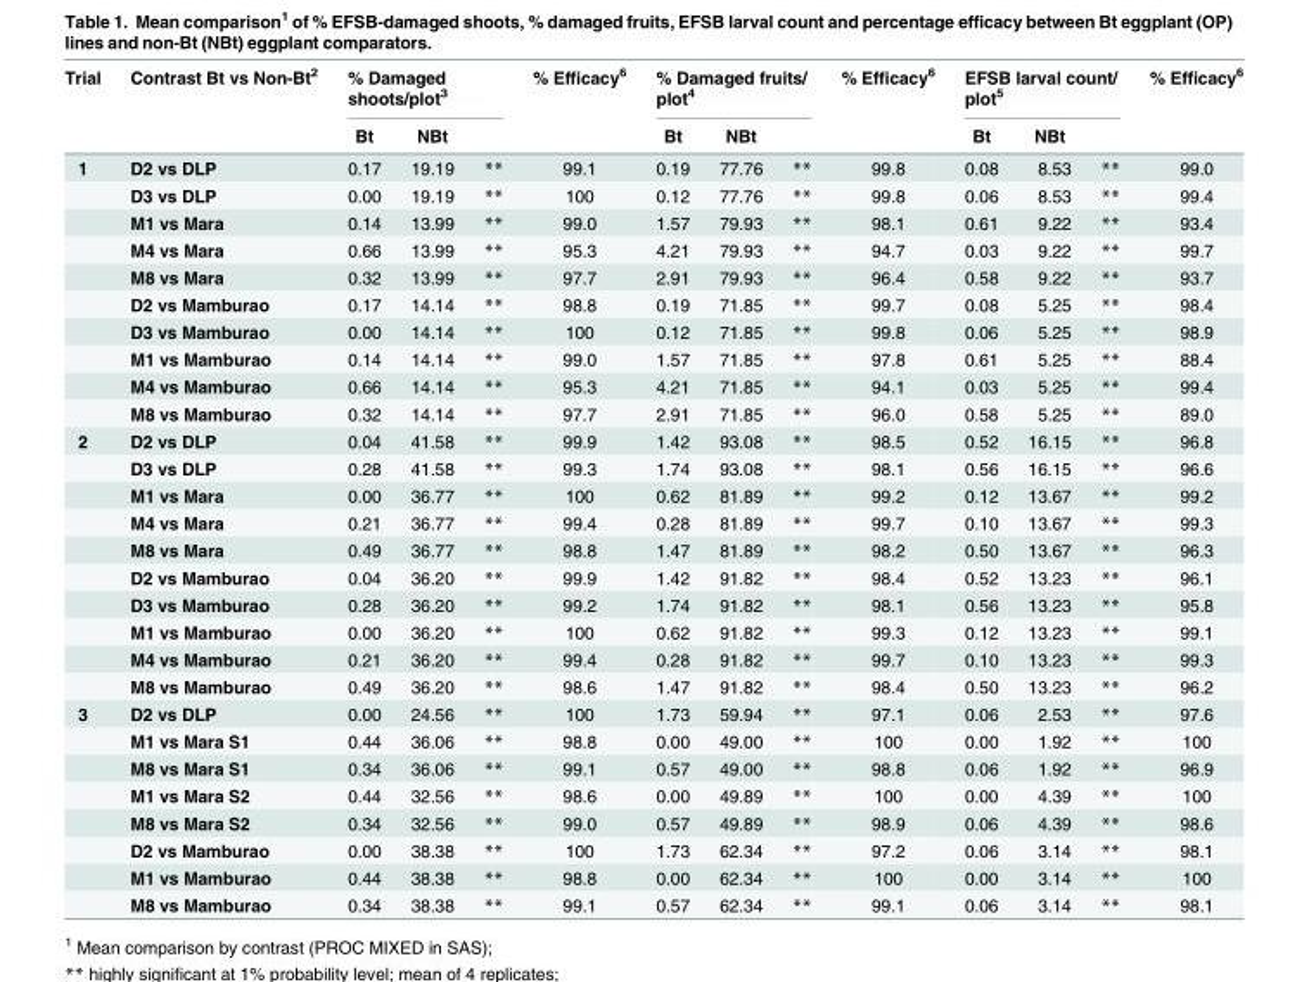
<table><thead><tr><td rowspan="2">Trial</td><td rowspan="2">Contrast Bt vs Non-Bt<sup>2</sup></td><td colspan="3">% Damaged shoots/plot<sup>3</sup></td><td rowspan="2">% Efficacy<sup>6</sup></td><td colspan="3">% Damaged fruits/ plot<sup>4</sup></td><td rowspan="2">% Efficacy<sup>6</sup></td><td colspan="3">EFSB larval count/ plot<sup>5</sup></td><td rowspan="2">% Efficacy<sup>6</sup></td></tr><tr><td>Bt</td><td>NBt</td><td></td><td>Bt</td><td>NBt</td><td></td><td>Bt</td><td>NBt</td><td></td></tr></thead><tbody><tr><td rowspan="10">1</td><td>D2 vs DLP</td><td>0.17</td><td>19.19</td><td>**</td><td>99.1</td><td>0.19</td><td>77.76</td><td>**</td><td>99.8</td><td>0.08</td><td>8.53</td><td>**</td><td>99.0</td></tr><tr><td>D3 vs DLP</td><td>0.00</td><td>19.19</td><td>**</td><td>100</td><td>0.12</td><td>77.76</td><td>**</td><td>99.8</td><td>0.06</td><td>8.53</td><td>**</td><td>99.4</td></tr><tr><td>M1 vs Mara</td><td>0.14</td><td>13.99</td><td>**</td><td>99.0</td><td>1.57</td><td>79.93</td><td>**</td><td>98.1</td><td>0.61</td><td>9.22</td><td>**</td><td>93.4</td></tr><tr><td>M4 vs Mara</td><td>0.66</td><td>13.99</td><td>**</td><td>95.3</td><td>4.21</td><td>79.93</td><td>**</td><td>94.7</td><td>0.03</td><td>9.22</td><td>**</td><td>99.7</td></tr><tr><td>M8 vs Mara</td><td>0.32</td><td>13.99</td><td>**</td><td>97.7</td><td>2.91</td><td>79.93</td><td>**</td><td>96.4</td><td>0.58</td><td>9.22</td><td>**</td><td>93.7</td></tr><tr><td>D2 vs Mamburao</td><td>0.17</td><td>14.14</td><td>**</td><td>98.8</td><td>0.19</td><td>71.85</td><td>**</td><td>99.7</td><td>0.08</td><td>5.25</td><td>**</td><td>98.4</td></tr><tr><td>D3 vs Mamburao</td><td>0.00</td><td>14.14</td><td>**</td><td>100</td><td>0.12</td><td>71.85</td><td>**</td><td>99.8</td><td>0.06</td><td>5.25</td><td>**</td><td>98.9</td></tr><tr><td>M1 vs Mamburao</td><td>0.14</td><td>14.14</td><td>**</td><td>99.0</td><td>1.57</td><td>71.85</td><td>**</td><td>97.8</td><td>0.61</td><td>5.25</td><td>**</td><td>88.4</td></tr><tr><td>M4 vs Mamburao</td><td>0.66</td><td>14.14</td><td>**</td><td>95.3</td><td>4.21</td><td>71.85</td><td>**</td><td>94.1</td><td>0.03</td><td>5.25</td><td>**</td><td>99.4</td></tr><tr><td>M8 vs Mamburao</td><td>0.32</td><td>14.14</td><td>**</td><td>97.7</td><td>2.91</td><td>71.85</td><td>**</td><td>96.0</td><td>0.58</td><td>5.25</td><td>**</td><td>89.0</td></tr><tr><td rowspan="10">2</td><td>D2 vs DLP</td><td>0.04</td><td>41.58</td><td>**</td><td>99.9</td><td>1.42</td><td>93.08</td><td>**</td><td>98.5</td><td>0.52</td><td>16.15</td><td>**</td><td>96.8</td></tr><tr><td>D3 vs DLP</td><td>0.28</td><td>41.58</td><td>**</td><td>99.3</td><td>1.74</td><td>93.08</td><td>**</td><td>98.1</td><td>0.56</td><td>16.15</td><td>**</td><td>96.6</td></tr><tr><td>M1 vs Mara</td><td>0.00</td><td>36.77</td><td>**</td><td>100</td><td>0.62</td><td>81.89</td><td>**</td><td>99.2</td><td>0.12</td><td>13.67</td><td>**</td><td>99.2</td></tr><tr><td>M4 vs Mara</td><td>0.21</td><td>36.77</td><td>**</td><td>99.4</td><td>0.28</td><td>81.89</td><td>**</td><td>99.7</td><td>0.10</td><td>13.67</td><td>**</td><td>99.3</td></tr><tr><td>M8 vs Mara</td><td>0.49</td><td>36.77</td><td>**</td><td>98.8</td><td>1.47</td><td>81.89</td><td>**</td><td>98.2</td><td>0.50</td><td>13.67</td><td>**</td><td>96.3</td></tr><tr><td>D2 vs Mamburao</td><td>0.04</td><td>36.20</td><td>**</td><td>99.9</td><td>1.42</td><td>91.82</td><td>**</td><td>98.4</td><td>0.52</td><td>13.23</td><td>**</td><td>96.1</td></tr><tr><td>D3 vs Mamburao</td><td>0.28</td><td>36.20</td><td>**</td><td>99.2</td><td>1.74</td><td>91.82</td><td>**</td><td>98.1</td><td>0.56</td><td>13.23</td><td>**</td><td>95.8</td></tr><tr><td>M1 vs Mamburao</td><td>0.00</td><td>36.20</td><td>**</td><td>100</td><td>0.62</td><td>91.82</td><td>**</td><td>99.3</td><td>0.12</td><td>13.23</td><td>**</td><td>99.1</td></tr><tr><td>M4 vs Mamburao</td><td>0.21</td><td>36.20</td><td>**</td><td>99.4</td><td>0.28</td><td>91.82</td><td>**</td><td>99.7</td><td>0.10</td><td>13.23</td><td>**</td><td>99.3</td></tr><tr><td>M8 vs Mamburao</td><td>0.49</td><td>36.20</td><td>**</td><td>98.6</td><td>1.47</td><td>91.82</td><td>**</td><td>98.4</td><td>0.50</td><td>13.23</td><td>**</td><td>96.2</td></tr><tr><td rowspan="8">3</td><td>D2 vs DLP</td><td>0.00</td><td>24.56</td><td>**</td><td>100</td><td>1.73</td><td>59.94</td><td>**</td><td>97.1</td><td>0.06</td><td>2.53</td><td>**</td><td>97.6</td></tr><tr><td>M1 vs Mara S1</td><td>0.44</td><td>36.06</td><td>**</td><td>98.8</td><td>0.00</td><td>49.00</td><td>**</td><td>100</td><td>0.00</td><td>1.92</td><td>**</td><td>100</td></tr><tr><td>M8 vs Mara S1</td><td>0.34</td><td>36.06</td><td>**</td><td>99.1</td><td>0.57</td><td>49.00</td><td>**</td><td>98.8</td><td>0.06</td><td>1.92</td><td>**</td><td>96.9</td></tr><tr><td>M1 vs Mara S2</td><td>0.44</td><td>32.56</td><td>**</td><td>98.6</td><td>0.00</td><td>49.89</td><td>**</td><td>100</td><td>0.00</td><td>4.39</td><td>**</td><td>100</td></tr><tr><td>M8 vs Mara S2</td><td>0.34</td><td>32.56</td><td>**</td><td>99.0</td><td>0.57</td><td>49.89</td><td>**</td><td>98.9</td><td>0.06</td><td>4.39</td><td>**</td><td>98.6</td></tr><tr><td>D2 vs Mamburao</td><td>0.00</td><td>38.38</td><td>**</td><td>100</td><td>1.73</td><td>62.34</td><td>**</td><td>97.2</td><td>0.06</td><td>3.14</td><td>**</td><td>98.1</td></tr><tr><td>M1 vs Mamburao</td><td>0.44</td><td>38.38</td><td>**</td><td>98.8</td><td>0.00</td><td>62.34</td><td>**</td><td>100</td><td>0.00</td><td>3.14</td><td>**</td><td>100</td></tr><tr><td>M8 vs Mamburao</td><td>0.34</td><td>38.38</td><td>**</td><td>99.1</td><td>0.57</td><td>62.34</td><td>**</td><td>99.1</td><td>0.06</td><td>3.14</td><td>**</td><td>98.1</td></tr></tbody></table>